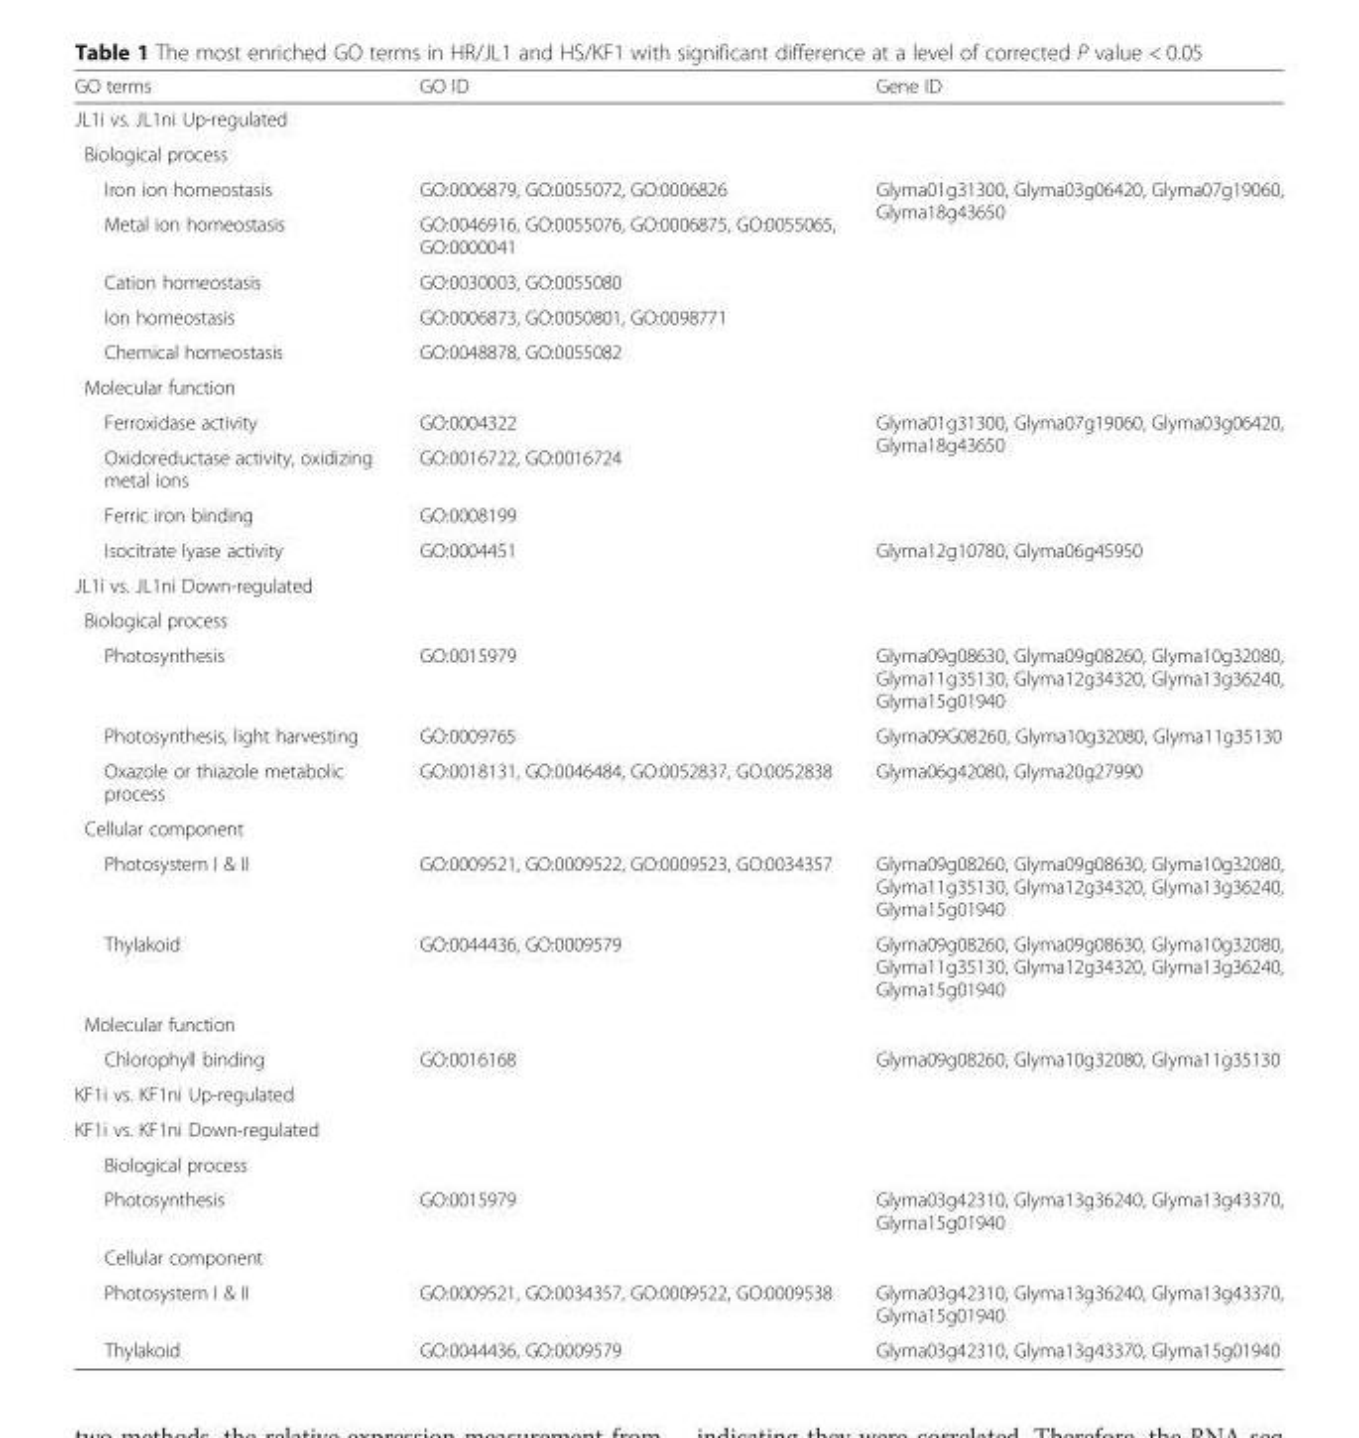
<table><thead><tr><td>GO terms</td><td>GO ID</td><td>Gene ID</td></tr></thead><tbody><tr><td colspan="3">JL1i vs. JL1ni Up-regulated</td></tr><tr><td colspan="3">Biological process</td></tr><tr><td>Iron ion homeostasis</td><td>GO:0006879, GO:0055072, GO:0006826</td><td rowspan="5">Glyma01g31300, Glyma03g06420, Glyma07g19060, Glyma18g43650</td></tr><tr><td>Metal ion homeostasis</td><td>GO:0046916, GO:0055076, GO:0006875, GO:0055065, GO:0000041</td></tr><tr><td>Cation homeostasis</td><td>GO:0030003, GO:0055080</td></tr><tr><td>Ion homeostasis</td><td>GO:0006873, GO:0050801, GO:0098771</td></tr><tr><td>Chemical homeostasis</td><td>GO:0048878, GO:0055082</td></tr><tr><td colspan="3">Molecular function</td></tr><tr><td>Ferroxidase activity</td><td>GO:0004322</td><td rowspan="3">Glyma01g31300, Glyma07g19060, Glyma03g06420, Glyma18g43650</td></tr><tr><td>Oxidoreductase activity, oxidizing metal ions</td><td>GO:0016722, GO:0016724</td></tr><tr><td>Ferric iron binding</td><td>GO:0008199</td></tr><tr><td>Isocitrate lyase activity</td><td>GO:0004451</td><td>Glyma12g10780, Glyma06g45950</td></tr><tr><td colspan="3">JL1i vs. JL1ni Down-regulated</td></tr><tr><td colspan="3">Biological process</td></tr><tr><td>Photosynthesis</td><td>GO:0015979</td><td>Glyma09g08630, Glyma09g08260, Glyma10g32080, Glyma11g35130, Glyma12g34320, Glyma13g36240, Glyma15g01940</td></tr><tr><td>Photosynthesis, light harvesting</td><td>GO:0009765</td><td>Glyma09G08260, Glyma10g32080, Glyma11g35130</td></tr><tr><td>Oxazole or thiazole metabolic process</td><td>GO:0018131, GO:0046484, GO:0052837, GO:0052838</td><td>Glyma06g42080, Glyma20g27990</td></tr><tr><td colspan="3">Cellular component</td></tr><tr><td>Photosystem I &amp; II</td><td>GO:0009521, GO:0009522, GO:0009523, GO:0034357</td><td>Glyma09g08260, Glyma09g08630, Glyma10g32080, Glyma11g35130, Glyma12g34320, Glyma13g36240, Glyma15g01940</td></tr><tr><td>Thylakoid</td><td>GO:0044436, GO:0009579</td><td>Glyma09g08260, Glyma09g08630, Glyma10g32080, Glyma11g35130, Glyma12g34320, Glyma13g36240, Glyma15g01940</td></tr><tr><td colspan="3">Molecular function</td></tr><tr><td>Chlorophyll binding</td><td>GO:0016168</td><td>Glyma09g08260, Glyma10g32080, Glyma11g35130</td></tr><tr><td colspan="3">KF1i vs. KF1ni Up-regulated</td></tr><tr><td colspan="3">KF1i vs. KF1ni Down-regulated</td></tr><tr><td colspan="3">Biological process</td></tr><tr><td>Photosynthesis</td><td>GO:0015979</td><td>Glyma03g42310, Glyma13g36240, Glyma13g43370, Glyma15g01940</td></tr><tr><td colspan="3">Cellular component</td></tr><tr><td>Photosystem I &amp; II</td><td>GO:0009521, GO:0034357, GO:0009522, GO:0009538</td><td>Glyma03g42310, Glyma13g36240, Glyma13g43370, Glyma15g01940</td></tr><tr><td>Thylakoid</td><td>GO:0044436, GO:0009579</td><td>Glyma03g42310, Glyma13g43370, Glyma15g01940</td></tr></tbody></table>